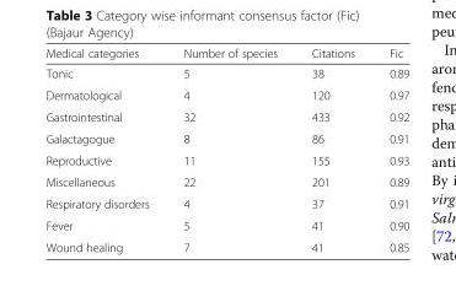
<table><thead><tr><td>Medical categories</td><td>Number of species</td><td>Citations</td><td>Fic</td></tr></thead><tbody><tr><td>Tonic</td><td>5</td><td>38</td><td>0.89</td></tr><tr><td>Dermatological</td><td>4</td><td>120</td><td>0.97</td></tr><tr><td>Gastrointestinal</td><td>32</td><td>433</td><td>0.92</td></tr><tr><td>Galactagogue</td><td>8</td><td>86</td><td>0.91</td></tr><tr><td>Reproductive</td><td>11</td><td>155</td><td>0.93</td></tr><tr><td>Miscellaneous</td><td>22</td><td>201</td><td>0.89</td></tr><tr><td>Respiratory disorders</td><td>4</td><td>37</td><td>0.91</td></tr><tr><td>Fever</td><td>5</td><td>41</td><td>0.90</td></tr><tr><td>Wound healing</td><td>7</td><td>41</td><td>0.85</td></tr></tbody></table>